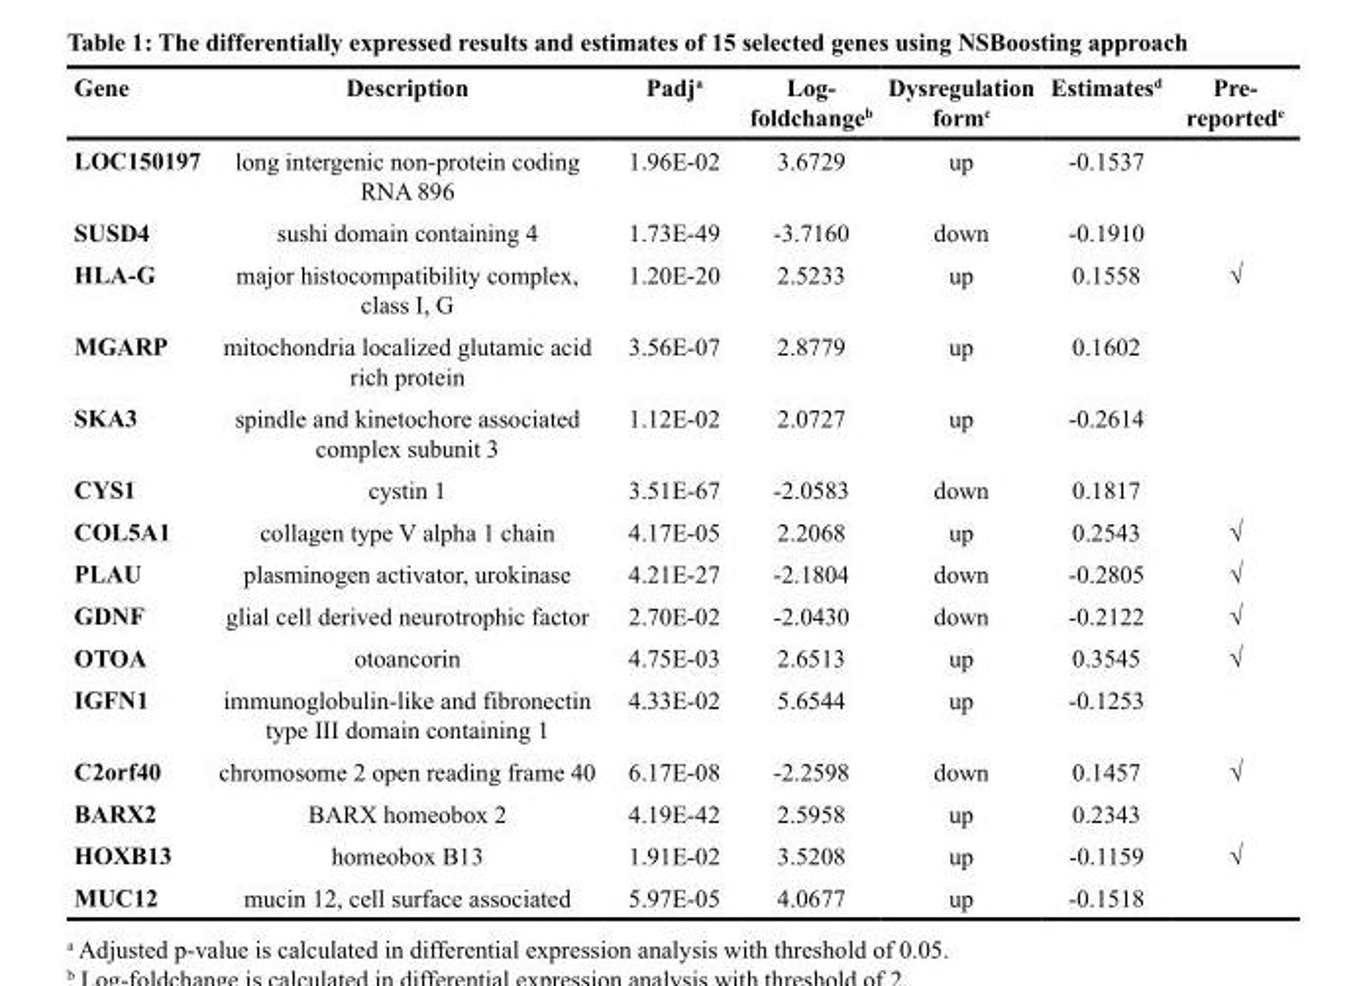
<table><thead><tr><td>Gene</td><td>Description</td><td>Padj<sup>a</sup></td><td>Log- foldchange<sup>b</sup></td><td>Dysregulation form<sup>c</sup></td><td>Estimates<sup>d</sup></td><td>Pre- reported<sup>e</sup></td></tr></thead><tbody><tr><td>LOC150197</td><td>long intergenic non-protein coding RNA 896</td><td>1.96E-02</td><td>3.6729</td><td>up</td><td>-0.1537</td><td></td></tr><tr><td>SUSD4</td><td>sushi domain containing 4</td><td>1.73E-49</td><td>-3.7160</td><td>down</td><td>-0.1910</td><td></td></tr><tr><td>HLA-G</td><td>major histocompatibility complex, class I, G</td><td>1.20E-20</td><td>2.5233</td><td>up</td><td>0.1558</td><td>√</td></tr><tr><td>MGARP</td><td>mitochondria localized glutamic acid rich protein</td><td>3.56E-07</td><td>2.8779</td><td>up</td><td>0.1602</td><td></td></tr><tr><td>SKA3</td><td>spindle and kinetochore associated complex subunit 3</td><td>1.12E-02</td><td>2.0727</td><td>up</td><td>-0.2614</td><td></td></tr><tr><td>CYS1</td><td>cystin 1</td><td>3.51E-67</td><td>-2.0583</td><td>down</td><td>0.1817</td><td></td></tr><tr><td>COL5A1</td><td>collagen type V alpha 1 chain</td><td>4.17E-05</td><td>2.2068</td><td>up</td><td>0.2543</td><td>√</td></tr><tr><td>PLAU</td><td>plasminogen activator, urokinase</td><td>4.21E-27</td><td>-2.1804</td><td>down</td><td>-0.2805</td><td>√</td></tr><tr><td>GDNF</td><td>glial cell derived neurotrophic factor</td><td>2.70E-02</td><td>-2.0430</td><td>down</td><td>-0.2122</td><td>√</td></tr><tr><td>OTOA</td><td>otoancorin</td><td>4.75E-03</td><td>2.6513</td><td>up</td><td>0.3545</td><td>√</td></tr><tr><td>IGFN1</td><td>immunoglobulin-like and fibronectin type III domain containing 1</td><td>4.33E-02</td><td>5.6544</td><td>up</td><td>-0.1253</td><td></td></tr><tr><td>C2orf40</td><td>chromosome 2 open reading frame 40</td><td>6.17E-08</td><td>-2.2598</td><td>down</td><td>0.1457</td><td>√</td></tr><tr><td>BARX2</td><td>BARX homeobox 2</td><td>4.19E-42</td><td>2.5958</td><td>up</td><td>0.2343</td><td></td></tr><tr><td>HOXB13</td><td>homeobox B13</td><td>1.91E-02</td><td>3.5208</td><td>up</td><td>-0.1159</td><td>√</td></tr><tr><td>MUC12</td><td>mucin 12, cell surface associated</td><td>5.97E-05</td><td>4.0677</td><td>up</td><td>-0.1518</td><td></td></tr></tbody></table>